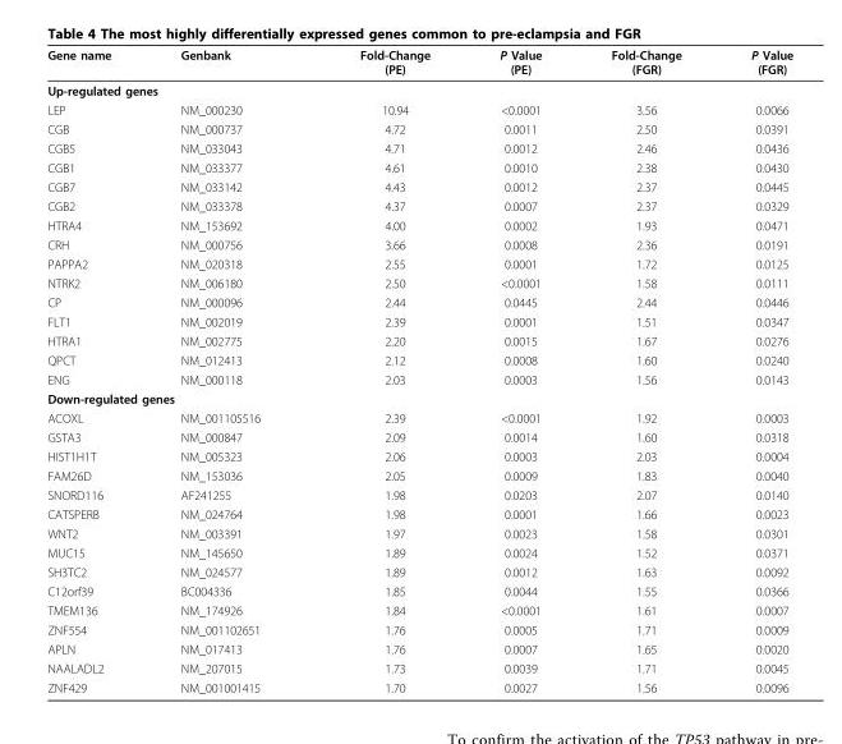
<table><thead><tr><td>Gene name</td><td>Genbank</td><td>Fold-Change (PE)</td><td>P Value (PE)</td><td>Fold-Change (FGR)</td><td>P Value (FGR)</td></tr></thead><tbody><tr><td colspan="6">Up-regulated genes</td></tr><tr><td>LEP</td><td>NM_000230</td><td>10.94</td><td>&lt;0.0001</td><td>3.56</td><td>0.0066</td></tr><tr><td>CGB</td><td>NM_000737</td><td>4.72</td><td>0.0011</td><td>2.50</td><td>0.0391</td></tr><tr><td>CGB5</td><td>NM_033043</td><td>4.71</td><td>0.0012</td><td>2.46</td><td>0.0436</td></tr><tr><td>CGB1</td><td>NM_033377</td><td>4.61</td><td>0.0010</td><td>2.38</td><td>0.0430</td></tr><tr><td>CGB7</td><td>NM_033142</td><td>4.43</td><td>0.0012</td><td>2.37</td><td>0.0445</td></tr><tr><td>CGB2</td><td>NM_033378</td><td>4.37</td><td>0.0007</td><td>2.37</td><td>0.0329</td></tr><tr><td>HTRA4</td><td>NM_153692</td><td>4.00</td><td>0.0002</td><td>1.93</td><td>0.0471</td></tr><tr><td>CRH</td><td>NM_000756</td><td>3.66</td><td>0.0008</td><td>2.36</td><td>0.0191</td></tr><tr><td>PAPPA2</td><td>NM_020318</td><td>2.55</td><td>0.0001</td><td>1.72</td><td>0.0125</td></tr><tr><td>NTRK2</td><td>NM_006180</td><td>2.50</td><td>&lt;0.0001</td><td>1.58</td><td>0.0111</td></tr><tr><td>CP</td><td>NM_000096</td><td>2.44</td><td>0.0445</td><td>2.44</td><td>0.0446</td></tr><tr><td>FLT1</td><td>NM_002019</td><td>2.39</td><td>0.0001</td><td>1.51</td><td>0.0347</td></tr><tr><td>HTRA1</td><td>NM_002775</td><td>2.20</td><td>0.0015</td><td>1.67</td><td>0.0276</td></tr><tr><td>QPCT</td><td>NM_012413</td><td>2.12</td><td>0.0008</td><td>1.60</td><td>0.0240</td></tr><tr><td>ENG</td><td>NM_000118</td><td>2.03</td><td>0.0003</td><td>1.56</td><td>0.0143</td></tr><tr><td colspan="6">Down-regulated genes</td></tr><tr><td>ACOXL</td><td>NM_001105516</td><td>2.39</td><td>&lt;0.0001</td><td>1.92</td><td>0.0003</td></tr><tr><td>GSTA3</td><td>NM_000847</td><td>2.09</td><td>0.0014</td><td>1.60</td><td>0.0318</td></tr><tr><td>HIST1H1T</td><td>NM_005323</td><td>2.06</td><td>0.0003</td><td>2.03</td><td>0.0004</td></tr><tr><td>FAM26D</td><td>NM_153036</td><td>2.05</td><td>0.0009</td><td>1.83</td><td>0.0040</td></tr><tr><td>SNORD116</td><td>AF241255</td><td>1.98</td><td>0.0203</td><td>2.07</td><td>0.0140</td></tr><tr><td>CATSPERB</td><td>NM_024764</td><td>1.98</td><td>0.0001</td><td>1.66</td><td>0.0023</td></tr><tr><td>WNT2</td><td>NM_003391</td><td>1.97</td><td>0.0023</td><td>1.58</td><td>0.0301</td></tr><tr><td>MUC15</td><td>NM_145650</td><td>1.89</td><td>0.0024</td><td>1.52</td><td>0.0371</td></tr><tr><td>SH3TC2</td><td>NM_024577</td><td>1.89</td><td>0.0012</td><td>1.63</td><td>0.0092</td></tr><tr><td>C12orf39</td><td>BC004336</td><td>1.85</td><td>0.0044</td><td>1.55</td><td>0.0366</td></tr><tr><td>TMEM136</td><td>NM_174926</td><td>1.84</td><td>&lt;0.0001</td><td>1.61</td><td>0.0007</td></tr><tr><td>ZNF554</td><td>NM_001102651</td><td>1.76</td><td>0.0005</td><td>1.71</td><td>0.0009</td></tr><tr><td>APLN</td><td>NM_017413</td><td>1.76</td><td>0.0007</td><td>1.65</td><td>0.0020</td></tr><tr><td>NAALADL2</td><td>NM_207015</td><td>1.73</td><td>0.0039</td><td>1.71</td><td>0.0045</td></tr><tr><td>ZNF429</td><td>NM_001001415</td><td>1.70</td><td>0.0027</td><td>1.56</td><td>0.0096</td></tr></tbody></table>